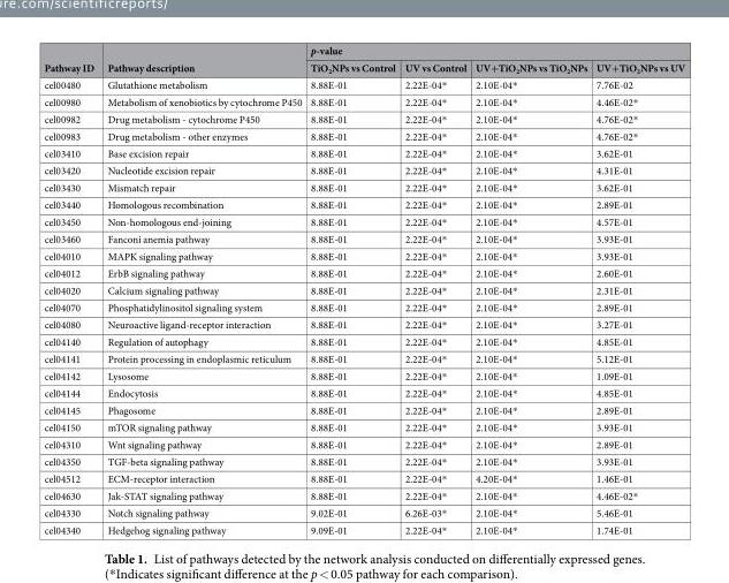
<table><thead><tr><td rowspan="2">Pathway ID</td><td rowspan="2">Pathway description</td><td colspan="4">p-value</td></tr><tr><td>TiO<sub>2</sub>NPs vs Control</td><td>UV vs Control</td><td>UV+TiO<sub>2</sub>NPs vs TiO<sub>2</sub>NPs</td><td>UV+TiO<sub>2</sub>NPs vs UV</td></tr></thead><tbody><tr><td>cel00480</td><td>Glutathione metabolism</td><td>8.88E-01</td><td>2.22E-04*</td><td>2.10E-04*</td><td>7.76E-02</td></tr><tr><td>cel00980</td><td>Metabolism of xenobiotics by cytochrome P450</td><td>8.88E-01</td><td>2.22E-04*</td><td>2.10E-04*</td><td>4.46E-02*</td></tr><tr><td>cel00982</td><td>Drug metabolism - cytochrome P450</td><td>8.88E-01</td><td>2.22E-04*</td><td>2.10E-04*</td><td>4.76E-02*</td></tr><tr><td>cel00983</td><td>Drug metabolism - other enzymes</td><td>8.88E-01</td><td>2.22E-04*</td><td>2.10E-04*</td><td>4.76E-02*</td></tr><tr><td>cel03410</td><td>Base excision repair</td><td>8.88E-01</td><td>2.22E-04*</td><td>2.10E-04*</td><td>3.62E-01</td></tr><tr><td>cel03420</td><td>Nucleotide excision repair</td><td>8.88E-01</td><td>2.22E-04*</td><td>2.10E-04*</td><td>4.31E-01</td></tr><tr><td>cel03430</td><td>Mismatch repair</td><td>8.88E-01</td><td>2.22E-04*</td><td>2.10E-04*</td><td>3.62E-01</td></tr><tr><td>cel03440</td><td>Homologous recombination</td><td>8.88E-01</td><td>2.22E-04*</td><td>2.10E-04*</td><td>2.89E-01</td></tr><tr><td>cel03450</td><td>Non-homologous end-joining</td><td>8.88E-01</td><td>2.22E-04*</td><td>2.10E-04*</td><td>4.57E-01</td></tr><tr><td>cel03460</td><td>Fanconi anemia pathway</td><td>8.88E-01</td><td>2.22E-04*</td><td>2.10E-04*</td><td>3.93E-01</td></tr><tr><td>cel04010</td><td>MAPK signaling pathway</td><td>8.88E-01</td><td>2.22E-04*</td><td>2.10E-04*</td><td>3.93E-01</td></tr><tr><td>cel04012</td><td>ErbB signaling pathway</td><td>8.88E-01</td><td>2.22E-04*</td><td>2.10E-04*</td><td>2.60E-01</td></tr><tr><td>cel04020</td><td>Calcium signaling pathway</td><td>8.88E-01</td><td>2.22E-04*</td><td>2.10E-04*</td><td>2.31E-01</td></tr><tr><td>cel04070</td><td>Phosphatidylinositol signaling system</td><td>8.88E-01</td><td>2.22E-04*</td><td>2.10E-04*</td><td>2.89E-01</td></tr><tr><td>cel04080</td><td>Neuroactive ligand-receptor interaction</td><td>8.88E-01</td><td>2.22E-04*</td><td>2.10E-04*</td><td>3.27E-01</td></tr><tr><td>cel04140</td><td>Regulation of autophagy</td><td>8.88E-01</td><td>2.22E-04*</td><td>2.10E-04*</td><td>4.85E-01</td></tr><tr><td>cel04141</td><td>Protein processing in endoplasmic reticulum</td><td>8.88E-01</td><td>2.22E-04*</td><td>2.10E-04*</td><td>5.12E-01</td></tr><tr><td>cel04142</td><td>Lysosome</td><td>8.88E-01</td><td>2.22E-04*</td><td>2.10E-04*</td><td>1.09E-01</td></tr><tr><td>cel04144</td><td>Endocytosis</td><td>8.88E-01</td><td>2.22E-04*</td><td>2.10E-04*</td><td>4.85E-01</td></tr><tr><td>cel04145</td><td>Phagosome</td><td>8.88E-01</td><td>2.22E-04*</td><td>2.10E-04*</td><td>2.89E-01</td></tr><tr><td>cel04150</td><td>mTOR signaling pathway</td><td>8.88E-01</td><td>2.22E-04*</td><td>2.10E-04*</td><td>3.93E-01</td></tr><tr><td>cel04310</td><td>Wnt signaling pathway</td><td>8.88E-01</td><td>2.22E-04*</td><td>2.10E-04*</td><td>2.89E-01</td></tr><tr><td>cel04350</td><td>TGF-beta signaling pathway</td><td>8.88E-01</td><td>2.22E-04*</td><td>2.10E-04*</td><td>3.93E-01</td></tr><tr><td>cel04512</td><td>ECM-receptor interaction</td><td>8.88E-01</td><td>2.22E-04*</td><td>4.20E-04*</td><td>1.46E-01</td></tr><tr><td>cel04630</td><td>Jak-STAT signaling pathway</td><td>8.88E-01</td><td>2.22E-04*</td><td>2.10E-04*</td><td>4.46E-02*</td></tr><tr><td>cel04330</td><td>Notch signaling pathway</td><td>9.02E-01</td><td>6.26E-03*</td><td>2.10E-04*</td><td>5.46E-01</td></tr><tr><td>cel04340</td><td>Hedgehog signaling pathway</td><td>9.09E-01</td><td>2.22E-04*</td><td>2.10E-04*</td><td>1.74E-01</td></tr></tbody></table>